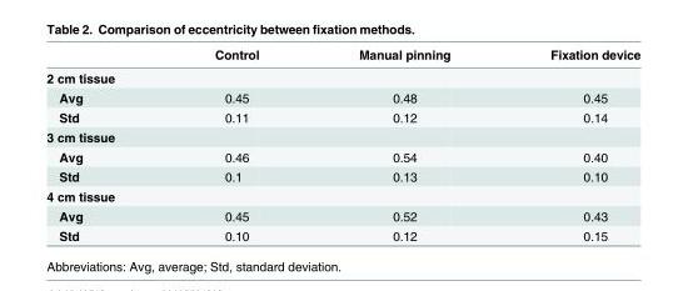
<table><thead><tr><td></td><td>Control</td><td>Manual pinning</td><td>Fixation device</td></tr></thead><tbody><tr><td colspan="4">2 cm tissue</td></tr><tr><td>Avg</td><td>0.45</td><td>0.48</td><td>0.45</td></tr><tr><td>Std</td><td>0.11</td><td>0.12</td><td>0.14</td></tr><tr><td colspan="4">3 cm tissue</td></tr><tr><td>Avg</td><td>0.46</td><td>0.54</td><td>0.40</td></tr><tr><td>Std</td><td>0.1</td><td>0.13</td><td>0.10</td></tr><tr><td colspan="4">4 cm tissue</td></tr><tr><td>Avg</td><td>0.45</td><td>0.52</td><td>0.43</td></tr><tr><td>Std</td><td>0.10</td><td>0.12</td><td>0.15</td></tr></tbody></table>